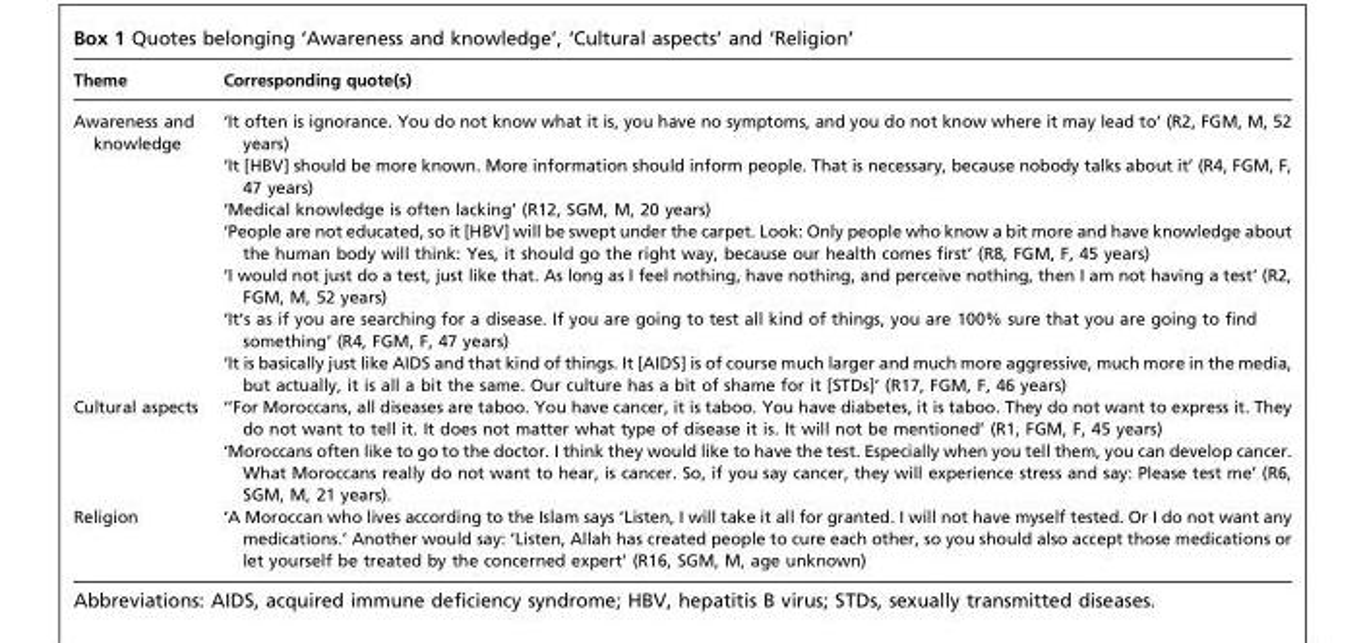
<table><thead><tr><td>Theme</td><td>Corresponding quote(s)</td></tr></thead><tbody><tr><td rowspan="7">Awareness and knowledge</td><td>‘It often is ignorance. You do not know what it is, you have no symptoms, and you do not know where it may lead to’ (R2, FGM, M, 52 years)</td></tr><tr><td>‘It [HBV] should be more known. More information should inform people. That is necessary, because nobody talks about it’ (R4, FGM, F, 47 years)</td></tr><tr><td>‘Medical knowledge is often lacking’ (R12, SGM, M, 20 years)</td></tr><tr><td>‘People are not educated, so it [HBV] will be swept under the carpet. Look: Only people who know a bit more and have knowledge about the human body will think: Yes, it should go the right way, because our health comes first’ (R8, FGM, F, 45 years)</td></tr><tr><td>‘I would not just do a test, just like that. As long as I feel nothing, have nothing, and perceive nothing, then I am not having a test’ (R2, FGM, M, 52 years)</td></tr><tr><td>‘It’s as if you are searching for a disease. If you are going to test all kind of things, you are 100% sure that you are going to find something’ (R4, FGM, F, 47 years)</td></tr><tr><td>‘It is basically just like AIDS and that kind of things. It [AIDS] is of course much larger and much more aggressive, much more in the media, but actually, it is all a bit the same. Our culture has a bit of shame for it [STDs]’ (R17, FGM, F, 46 years)</td></tr><tr><td rowspan="2">Cultural aspects</td><td>‘‘For Moroccans, all diseases are taboo. You have cancer, it is taboo. You have diabetes, it is taboo. They do not want to express it. They do not want to tell it. It does not matter what type of disease it is. It will not be mentioned’ (R1, FGM, F, 45 years)</td></tr><tr><td>‘Moroccans often like to go to the doctor. I think they would like to have the test. Especially when you tell them, you can develop cancer. What Moroccans really do not want to hear, is cancer. So, if you say cancer, they will experience stress and say: Please test me’ (R6, SGM, M, 21 years).</td></tr><tr><td>Religion</td><td>‘A Moroccan who lives according to the Islam says ‘Listen, I will take it all for granted. I will not have myself tested. Or I do not want any medications.’ Another would say: ‘Listen, Allah has created people to cure each other, so you should also accept those medications or let yourself be treated by the concerned expert’ (R16, SGM, M, age unknown)</td></tr></tbody></table>